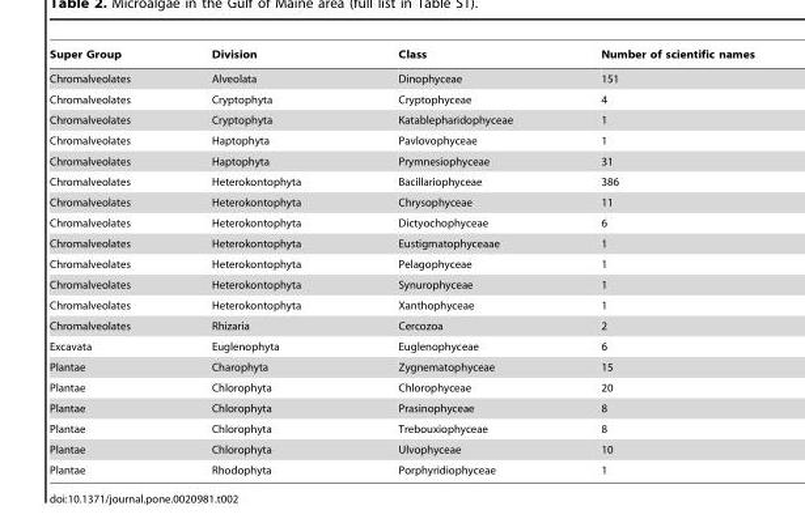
<table><thead><tr><td>Super Group</td><td>Division</td><td>Class</td><td>Number of scientific names</td></tr></thead><tbody><tr><td>Chromalveolates</td><td>Alveolata</td><td>Dinophyceae</td><td>151</td></tr><tr><td>Chromalveolates</td><td>Cryptophyta</td><td>Cryptophyceae</td><td>4</td></tr><tr><td>Chromalveolates</td><td>Cryptophyta</td><td>Katablepharidophyceae</td><td>1</td></tr><tr><td>Chromalveolates</td><td>Haptophyta</td><td>Pavlovophyceae</td><td>1</td></tr><tr><td>Chromalveolates</td><td>Haptophyta</td><td>Prymnesiophyceae</td><td>31</td></tr><tr><td>Chromalveolates</td><td>Heterokontophyta</td><td>Bacillariophyceae</td><td>386</td></tr><tr><td>Chromalveolates</td><td>Heterokontophyta</td><td>Chrysophyceae</td><td>11</td></tr><tr><td>Chromalveolates</td><td>Heterokontophyta</td><td>Dictyochophyceae</td><td>6</td></tr><tr><td>Chromalveolates</td><td>Heterokontophyta</td><td>Eustigmatophyceaae</td><td>1</td></tr><tr><td>Chromalveolates</td><td>Heterokontophyta</td><td>Pelagophyceae</td><td>1</td></tr><tr><td>Chromalveolates</td><td>Heterokontophyta</td><td>Synurophyceae</td><td>1</td></tr><tr><td>Chromalveolates</td><td>Heterokontophyta</td><td>Xanthophyceae</td><td>1</td></tr><tr><td>Chromalveolates</td><td>Rhizaria</td><td>Cercozoa</td><td>2</td></tr><tr><td>Excavata</td><td>Euglenophyta</td><td>Euglenophyceae</td><td>6</td></tr><tr><td>Plantae</td><td>Charophyta</td><td>Zygnematophyceae</td><td>15</td></tr><tr><td>Plantae</td><td>Chlorophyta</td><td>Chlorophyceae</td><td>20</td></tr><tr><td>Plantae</td><td>Chlorophyta</td><td>Prasinophyceae</td><td>8</td></tr><tr><td>Plantae</td><td>Chlorophyta</td><td>Trebouxiophyceae</td><td>8</td></tr><tr><td>Plantae</td><td>Chlorophyta</td><td>Ulvophyceae</td><td>10</td></tr><tr><td>Plantae</td><td>Rhodophyta</td><td>Porphyridiophyceae</td><td>1</td></tr></tbody></table>